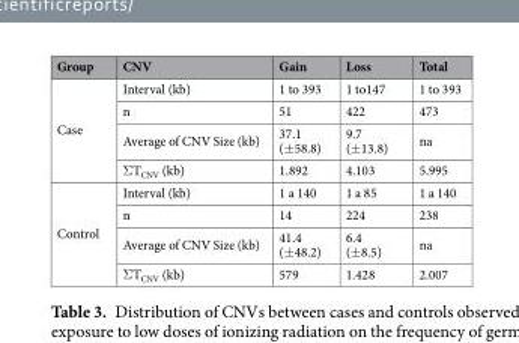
<table><thead><tr><td>Group</td><td>CNV</td><td>Gain</td><td>Loss</td><td>Total</td></tr></thead><tbody><tr><td rowspan="4">Case</td><td>Interval (kb)</td><td>1 to 393</td><td>1 to147</td><td>1 to 393</td></tr><tr><td>n</td><td>51</td><td>422</td><td>473</td></tr><tr><td>Average of CNV Size (kb)</td><td>37.1 (±58.8)</td><td>9.7 (±13.8)</td><td>na</td></tr><tr><td>ΣT<sub>CNV</sub> (kb)</td><td>1.892</td><td>4.103</td><td>5.995</td></tr><tr><td rowspan="4">Control</td><td>Interval (kb)</td><td>1 a 140</td><td>1 a 85</td><td>1 a 140</td></tr><tr><td>n</td><td>14</td><td>224</td><td>238</td></tr><tr><td>Average of CNV Size (kb)</td><td>41.4 (±48.2)</td><td>6.4 (±8.5)</td><td>na</td></tr><tr><td>ΣT<sub>CNV</sub> (kb)</td><td>579</td><td>1.428</td><td>2.007</td></tr></tbody></table>